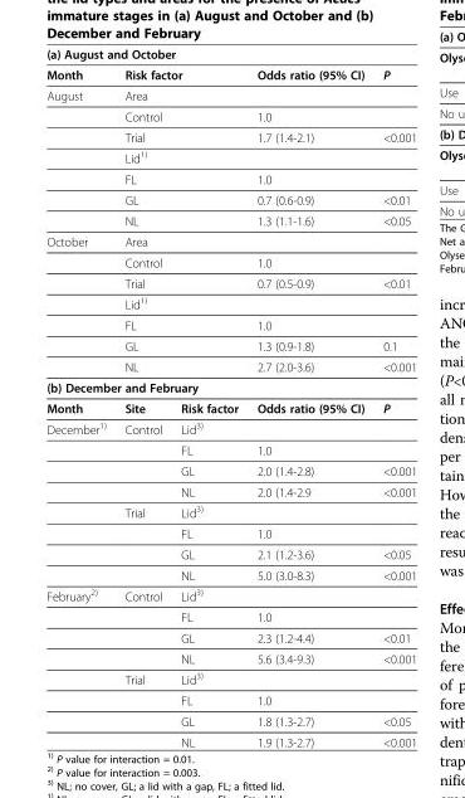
<table><thead><tr><td colspan="5">(a) August and October</td></tr></thead><tbody><tr><td>Month</td><td colspan="2">Risk factor</td><td>Odds ratio (95% CI)</td><td>P</td></tr><tr><td rowspan="7">August</td><td colspan="2">Area</td><td></td><td></td></tr><tr><td colspan="2">Control</td><td>1.0</td><td></td></tr><tr><td colspan="2">Trial</td><td>1.7 (1.4-2.1)</td><td>&lt;0.001</td></tr><tr><td colspan="2">Lid<sup>1)</sup></td><td></td><td></td></tr><tr><td colspan="2">FL</td><td>1.0</td><td></td></tr><tr><td colspan="2">GL</td><td>0.7 (0.6-0.9)</td><td>&lt;0.01</td></tr><tr><td colspan="2">NL</td><td>1.3 (1.1-1.6)</td><td>&lt;0.05</td></tr><tr><td rowspan="7">October</td><td colspan="2">Area</td><td></td><td></td></tr><tr><td colspan="2">Control</td><td>1.0</td><td></td></tr><tr><td colspan="2">Trial</td><td>0.7 (0.5-0.9)</td><td>&lt;0.01</td></tr><tr><td colspan="2">Lid<sup>1)</sup></td><td></td><td></td></tr><tr><td colspan="2">FL</td><td>1.0</td><td></td></tr><tr><td colspan="2">GL</td><td>1.3 (0.9-1.8)</td><td>0.1</td></tr><tr><td colspan="2">NL</td><td>2.7 (2.0-3.6)</td><td>&lt;0.001</td></tr><tr><td colspan="5">(b) December and February</td></tr><tr><td>Month</td><td>Site</td><td>Risk factor</td><td>Odds ratio (95% CI)</td><td>P</td></tr><tr><td rowspan="8">December<sup>1)</sup></td><td>Control</td><td>Lid<sup>3)</sup></td><td></td><td></td></tr><tr><td></td><td>FL</td><td>1.0</td><td></td></tr><tr><td></td><td>GL</td><td>2.0 (1.4-2.8)</td><td>&lt;0.001</td></tr><tr><td></td><td>NL</td><td>2.0 (1.4-2.9</td><td>&lt;0.001</td></tr><tr><td>Trial</td><td>Lid<sup>3)</sup></td><td></td><td></td></tr><tr><td></td><td>FL</td><td>1.0</td><td></td></tr><tr><td></td><td>GL</td><td>2.1 (1.2-3.6)</td><td>&lt;0.05</td></tr><tr><td></td><td>NL</td><td>5.0 (3.0-8.3)</td><td>&lt;0.001</td></tr><tr><td rowspan="8">February<sup>2)</sup></td><td>Control</td><td>Lid<sup>3)</sup></td><td></td><td></td></tr><tr><td></td><td>FL</td><td>1.0</td><td></td></tr><tr><td></td><td>GL</td><td>2.3 (1.2-4.4)</td><td>&lt;0.01</td></tr><tr><td></td><td>NL</td><td>5.6 (3.4-9.3)</td><td>&lt;0.001</td></tr><tr><td>Trial</td><td>Lid<sup>3)</sup></td><td></td><td></td></tr><tr><td></td><td>FL</td><td>1.0</td><td></td></tr><tr><td></td><td>GL</td><td>1.8 (1.3-2.7)</td><td>&lt;0.05</td></tr><tr><td></td><td>NL</td><td>1.9 (1.3-2.7)</td><td>&lt;0.001</td></tr></tbody></table>